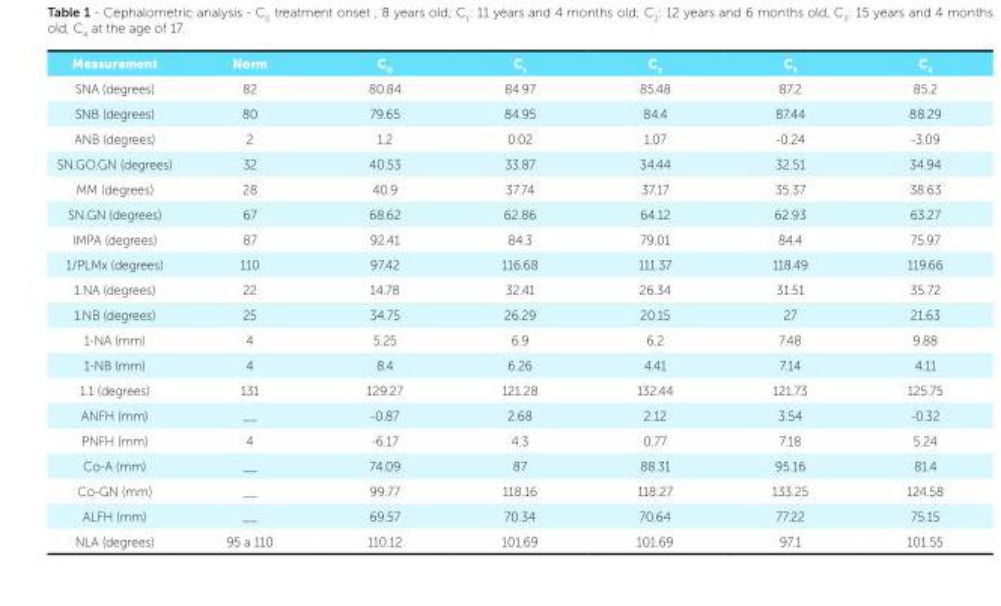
<table><thead><tr><td>Measurement</td><td>Norm</td><td>C<sub>O</sub></td><td>C<sub>1</sub></td><td>C<sub>2</sub></td><td>C<sub>3</sub></td><td>C<sub>4</sub></td></tr></thead><tbody><tr><td>SNA (degrees)</td><td>82</td><td>80.84</td><td>84.97</td><td>85.48</td><td>87.2</td><td>85.2</td></tr><tr><td>SNB (degrees)</td><td>80</td><td>79.65</td><td>84.95</td><td>84.4</td><td>87.44</td><td>88.29</td></tr><tr><td>ANB (degrees)</td><td>2</td><td>1.2</td><td>0.02</td><td>1.07</td><td>-0.24</td><td>-3.09</td></tr><tr><td>SN.GO.GN (degrees)</td><td>32</td><td>40.53</td><td>33.87</td><td>34.44</td><td>32.51</td><td>34.94</td></tr><tr><td>MM (degrees)</td><td>28</td><td>40.9</td><td>37.74</td><td>37.17</td><td>35.37</td><td>38.63</td></tr><tr><td>SN.GN (degrees)</td><td>67</td><td>68.62</td><td>62.86</td><td>64.12</td><td>62.93</td><td>63.27</td></tr><tr><td>IMPA (degrees)</td><td>87</td><td>92.41</td><td>84.3</td><td>79.01</td><td>84.4</td><td>75.97</td></tr><tr><td>1/PLMx (degrees)</td><td>110</td><td>97.42</td><td>116.68</td><td>111.37</td><td>118.49</td><td>119.66</td></tr><tr><td>1.NA (degrees)</td><td>22</td><td>14.78</td><td>32.41</td><td>26.34</td><td>31.51</td><td>35.72</td></tr><tr><td>1.NB (degrees)</td><td>25</td><td>34.75</td><td>26.29</td><td>20.15</td><td>27</td><td>21.63</td></tr><tr><td>1-NA (mm)</td><td>4</td><td>5.25</td><td>6.9</td><td>6.2</td><td>7.48</td><td>9.88</td></tr><tr><td>1-NB (mm)</td><td>4</td><td>8.4</td><td>6.26</td><td>4.41</td><td>7.14</td><td>4.11</td></tr><tr><td>1.1 (degrees)</td><td>131</td><td>129.27</td><td>121.28</td><td>132.44</td><td>121.73</td><td>125.75</td></tr><tr><td>ANFH (mm)</td><td>__</td><td>-0.87</td><td>2.68</td><td>2.12</td><td>3.54</td><td>-0.32</td></tr><tr><td>PNFH (mm)</td><td>4</td><td>-6.17</td><td>4.3</td><td>0.77</td><td>7.18</td><td>5.24</td></tr><tr><td>Co-A (mm)</td><td>__</td><td>74.09</td><td>87</td><td>88.31</td><td>95.16</td><td>81.4</td></tr><tr><td>Co-GN (mm)</td><td>__</td><td>99.77</td><td>118.16</td><td>118.27</td><td>133.25</td><td>124.58</td></tr><tr><td>ALFH (mm)</td><td>__</td><td>69.57</td><td>70.34</td><td>70.64</td><td>77.22</td><td>75.15</td></tr><tr><td>NLA (degrees)</td><td>95 a 110</td><td>110.12</td><td>101.69</td><td>101.69</td><td>97.1</td><td>101.55</td></tr></tbody></table>